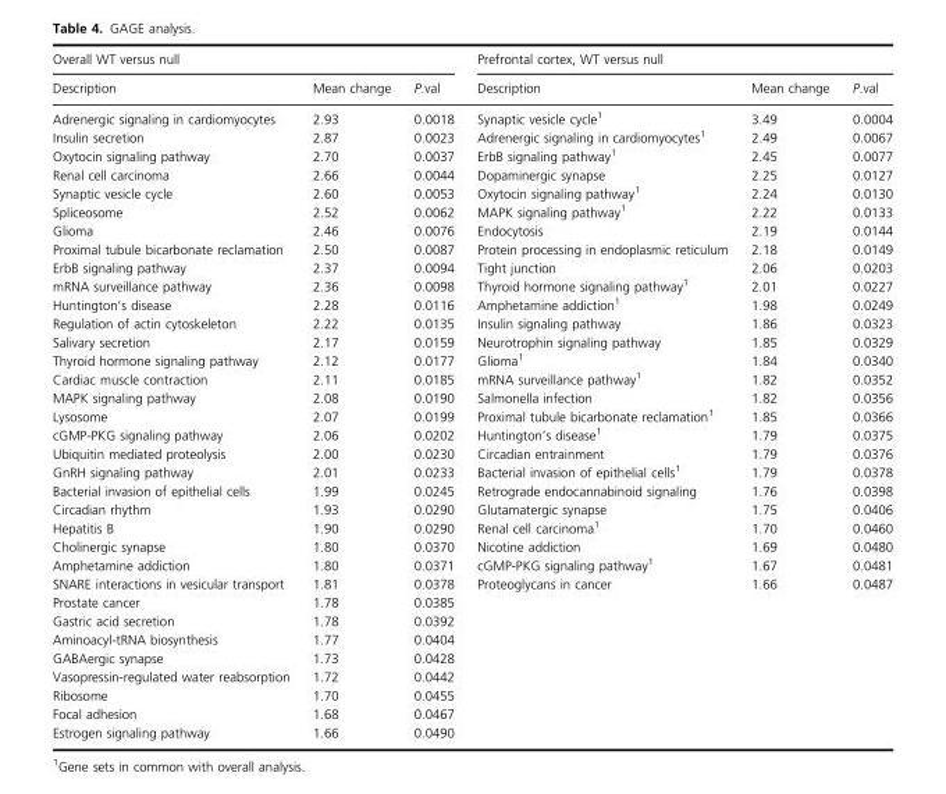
<table><thead><tr><td colspan="3">Overall WT versus null</td><td colspan="3">Prefrontal cortex, WT versus null</td></tr><tr><td>Description</td><td>Mean change</td><td>P.val</td><td>Description</td><td>Mean change</td><td>P.val</td></tr></thead><tbody><tr><td>Adrenergic signaling in cardiomyocytes</td><td>2.93</td><td>0.0018</td><td>Synaptic vesicle cycle1</td><td>3.49</td><td>0.0004</td></tr><tr><td>Insulin secretion</td><td>2.87</td><td>0.0023</td><td>Adrenergic signaling in cardiomyocytes1</td><td>2.49</td><td>0.0067</td></tr><tr><td>Oxytocin signaling pathway</td><td>2.70</td><td>0.0037</td><td>ErbB signaling pathway1</td><td>2.45</td><td>0.0077</td></tr><tr><td>Renal cell carcinoma</td><td>2.66</td><td>0.0044</td><td>Dopaminergic synapse</td><td>2.25</td><td>0.0127</td></tr><tr><td>Synaptic vesicle cycle</td><td>2.60</td><td>0.0053</td><td>Oxytocin signaling pathway1</td><td>2.24</td><td>0.0130</td></tr><tr><td>Spliceosome</td><td>2.52</td><td>0.0062</td><td>MAPK signaling pathway1</td><td>2.22</td><td>0.0133</td></tr><tr><td>Glioma</td><td>2.46</td><td>0.0076</td><td>Endocytosis</td><td>2.19</td><td>0.0144</td></tr><tr><td>Proximal tubule bicarbonate reclamation</td><td>2.50</td><td>0.0087</td><td>Protein processing in endoplasmic reticulum</td><td>2.18</td><td>0.0149</td></tr><tr><td>ErbB signaling pathway</td><td>2.37</td><td>0.0094</td><td>Tight junction</td><td>2.06</td><td>0.0203</td></tr><tr><td>mRNA surveillance pathway</td><td>2.36</td><td>0.0098</td><td>Thyroid hormone signaling pathway1</td><td>2.01</td><td>0.0227</td></tr><tr><td>Huntington’s disease</td><td>2.28</td><td>0.0116</td><td>Amphetamine addiction1</td><td>1.98</td><td>0.0249</td></tr><tr><td>Regulation of actin cytoskeleton</td><td>2.22</td><td>0.0135</td><td>Insulin signaling pathway</td><td>1.86</td><td>0.0323</td></tr><tr><td>Salivary secretion</td><td>2.17</td><td>0.0159</td><td>Neurotrophin signaling pathway</td><td>1.85</td><td>0.0329</td></tr><tr><td>Thyroid hormone signaling pathway</td><td>2.12</td><td>0.0177</td><td>Glioma1</td><td>1.84</td><td>0.0340</td></tr><tr><td>Cardiac muscle contraction</td><td>2.11</td><td>0.0185</td><td>mRNA surveillance pathway1</td><td>1.82</td><td>0.0352</td></tr><tr><td>MAPK signaling pathway</td><td>2.08</td><td>0.0190</td><td>Salmonella infection</td><td>1.82</td><td>0.0356</td></tr><tr><td>Lysosome</td><td>2.07</td><td>0.0199</td><td>Proximal tubule bicarbonate reclamation1</td><td>1.85</td><td>0.0366</td></tr><tr><td>cGMP-PKG signaling pathway</td><td>2.06</td><td>0.0202</td><td>Huntington’s disease1</td><td>1.79</td><td>0.0375</td></tr><tr><td>Ubiquitin mediated proteolysis</td><td>2.00</td><td>0.0230</td><td>Circadian entrainment</td><td>1.79</td><td>0.0376</td></tr><tr><td>GnRH signaling pathway</td><td>2.01</td><td>0.0233</td><td>Bacterial invasion of epithelial cells1</td><td>1.79</td><td>0.0378</td></tr><tr><td>Bacterial invasion of epithelial cells</td><td>1.99</td><td>0.0245</td><td>Retrograde endocannabinoid signaling</td><td>1.76</td><td>0.0398</td></tr><tr><td>Circadian rhythm</td><td>1.93</td><td>0.0290</td><td>Glutamatergic synapse</td><td>1.75</td><td>0.0406</td></tr><tr><td>Hepatitis B</td><td>1.90</td><td>0.0290</td><td>Renal cell carcinoma1</td><td>1.70</td><td>0.0460</td></tr><tr><td>Cholinergic synapse</td><td>1.80</td><td>0.0370</td><td>Nicotine addiction</td><td>1.69</td><td>0.0480</td></tr><tr><td>Amphetamine addiction</td><td>1.80</td><td>0.0371</td><td>cGMP-PKG signaling pathway1</td><td>1.67</td><td>0.0481</td></tr><tr><td>SNARE interactions in vesicular transport</td><td>1.81</td><td>0.0378</td><td>Proteoglycans in cancer</td><td>1.66</td><td>0.0487</td></tr><tr><td>Prostate cancer</td><td>1.78</td><td>0.0385</td><td></td><td></td><td></td></tr><tr><td>Gastric acid secretion</td><td>1.78</td><td>0.0392</td><td></td><td></td><td></td></tr><tr><td>Aminoacyl-tRNA biosynthesis</td><td>1.77</td><td>0.0404</td><td></td><td></td><td></td></tr><tr><td>GABAergic synapse</td><td>1.73</td><td>0.0428</td><td></td><td></td><td></td></tr><tr><td>Vasopressin-regulated water reabsorption</td><td>1.72</td><td>0.0442</td><td></td><td></td><td></td></tr><tr><td>Ribosome</td><td>1.70</td><td>0.0455</td><td></td><td></td><td></td></tr><tr><td>Focal adhesion</td><td>1.68</td><td>0.0467</td><td></td><td></td><td></td></tr><tr><td>Estrogen signaling pathway</td><td>1.66</td><td>0.0490</td><td></td><td></td><td></td></tr></tbody></table>